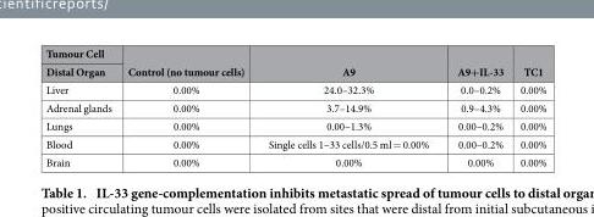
<table><thead><tr><td rowspan="2">Tumour Cell Distal Organ</td><td rowspan="2">Control (no tumour cells)</td><td rowspan="2">A9</td><td rowspan="2">A9+IL-33</td><td rowspan="2">TC1</td></tr><tr></tr></thead><tbody><tr><td>Liver</td><td>0.00%</td><td>24.0–32.3%</td><td>0.0–0.2%</td><td>0.00%</td></tr><tr><td>Adrenal glands</td><td>0.00%</td><td>3.7–14.9%</td><td>0.9–4.3%</td><td>0.00%</td></tr><tr><td>Lungs</td><td>0.00%</td><td>0.00–1.3%</td><td>0.00–0.2%</td><td>0.00%</td></tr><tr><td>Blood</td><td>0.00%</td><td>Single cells 1–33 cells/0.5 ml = 0.00%</td><td>0.00–0.2%</td><td>0.00%</td></tr><tr><td>Brain</td><td>0.00%</td><td>0.00%</td><td>0.00%</td><td>0.00%</td></tr></tbody></table>